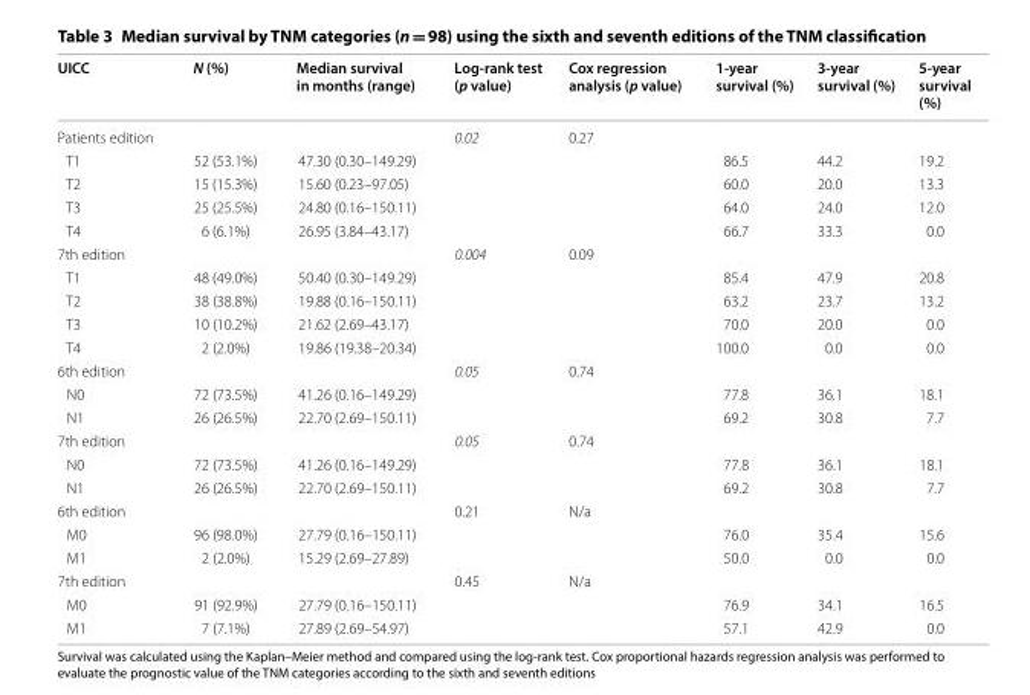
<table><thead><tr><td>UICC</td><td>N (%)</td><td>Median survival in months (range)</td><td>Log-rank test (p value)</td><td>Cox regression analysis (p value)</td><td>1-year survival (%)</td><td>3-year survival (%)</td><td>5-year survival (%)</td></tr></thead><tbody><tr><td>Patients edition</td><td></td><td></td><td>0.02</td><td>0.27</td><td></td><td></td><td></td></tr><tr><td>T1</td><td>52 (53.1%)</td><td>47.30 (0.30–149.29)</td><td></td><td></td><td>86.5</td><td>44.2</td><td>19.2</td></tr><tr><td>T2</td><td>15 (15.3%)</td><td>15.60 (0.23–97.05)</td><td></td><td></td><td>60.0</td><td>20.0</td><td>13.3</td></tr><tr><td>T3</td><td>25 (25.5%)</td><td>24.80 (0.16–150.11)</td><td></td><td></td><td>64.0</td><td>24.0</td><td>12.0</td></tr><tr><td>T4</td><td>6 (6.1%)</td><td>26.95 (3.84–43.17)</td><td></td><td></td><td>66.7</td><td>33.3</td><td>0.0</td></tr><tr><td>7th edition</td><td></td><td></td><td>0.004</td><td>0.09</td><td></td><td></td><td></td></tr><tr><td>T1</td><td>48 (49.0%)</td><td>50.40 (0.30–149.29)</td><td></td><td></td><td>85.4</td><td>47.9</td><td>20.8</td></tr><tr><td>T2</td><td>38 (38.8%)</td><td>19.88 (0.16–150.11)</td><td></td><td></td><td>63.2</td><td>23.7</td><td>13.2</td></tr><tr><td>T3</td><td>10 (10.2%)</td><td>21.62 (2.69–43.17)</td><td></td><td></td><td>70.0</td><td>20.0</td><td>0.0</td></tr><tr><td>T4</td><td>2 (2.0%)</td><td>19.86 (19.38–20.34)</td><td></td><td></td><td>100.0</td><td>0.0</td><td>0.0</td></tr><tr><td>6th edition</td><td></td><td></td><td>0.05</td><td>0.74</td><td></td><td></td><td></td></tr><tr><td>N0</td><td>72 (73.5%)</td><td>41.26 (0.16–149.29)</td><td></td><td></td><td>77.8</td><td>36.1</td><td>18.1</td></tr><tr><td>N1</td><td>26 (26.5%)</td><td>22.70 (2.69–150.11)</td><td></td><td></td><td>69.2</td><td>30.8</td><td>7.7</td></tr><tr><td>7th edition</td><td></td><td></td><td>0.05</td><td>0.74</td><td></td><td></td><td></td></tr><tr><td>N0</td><td>72 (73.5%)</td><td>41.26 (0.16–149.29)</td><td></td><td></td><td>77.8</td><td>36.1</td><td>18.1</td></tr><tr><td>N1</td><td>26 (26.5%)</td><td>22.70 (2.69–150.11)</td><td></td><td></td><td>69.2</td><td>30.8</td><td>7.7</td></tr><tr><td>6th edition</td><td></td><td></td><td>0.21</td><td>N/a</td><td></td><td></td><td></td></tr><tr><td>M0</td><td>96 (98.0%)</td><td>27.79 (0.16–150.11)</td><td></td><td></td><td>76.0</td><td>35.4</td><td>15.6</td></tr><tr><td>M1</td><td>2 (2.0%)</td><td>15.29 (2.69–27.89)</td><td></td><td></td><td>50.0</td><td>0.0</td><td>0.0</td></tr><tr><td>7th edition</td><td></td><td></td><td>0.45</td><td>N/a</td><td></td><td></td><td></td></tr><tr><td>M0</td><td>91 (92.9%)</td><td>27.79 (0.16–150.11)</td><td></td><td></td><td>76.9</td><td>34.1</td><td>16.5</td></tr><tr><td>M1</td><td>7 (7.1%)</td><td>27.89 (2.69–54.97)</td><td></td><td></td><td>57.1</td><td>42.9</td><td>0.0</td></tr></tbody></table>